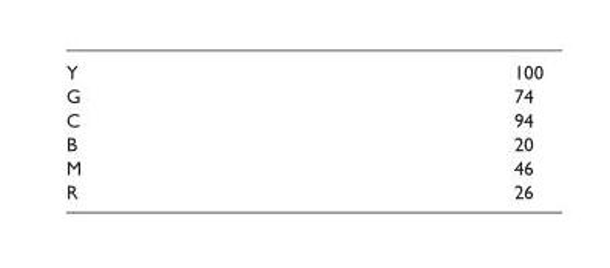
<table><tbody><tr><td>Y</td><td>100</td></tr><tr><td>G</td><td>74</td></tr><tr><td>C</td><td>94</td></tr><tr><td>B</td><td>20</td></tr><tr><td>M</td><td>46</td></tr><tr><td>R</td><td>26</td></tr></tbody></table>